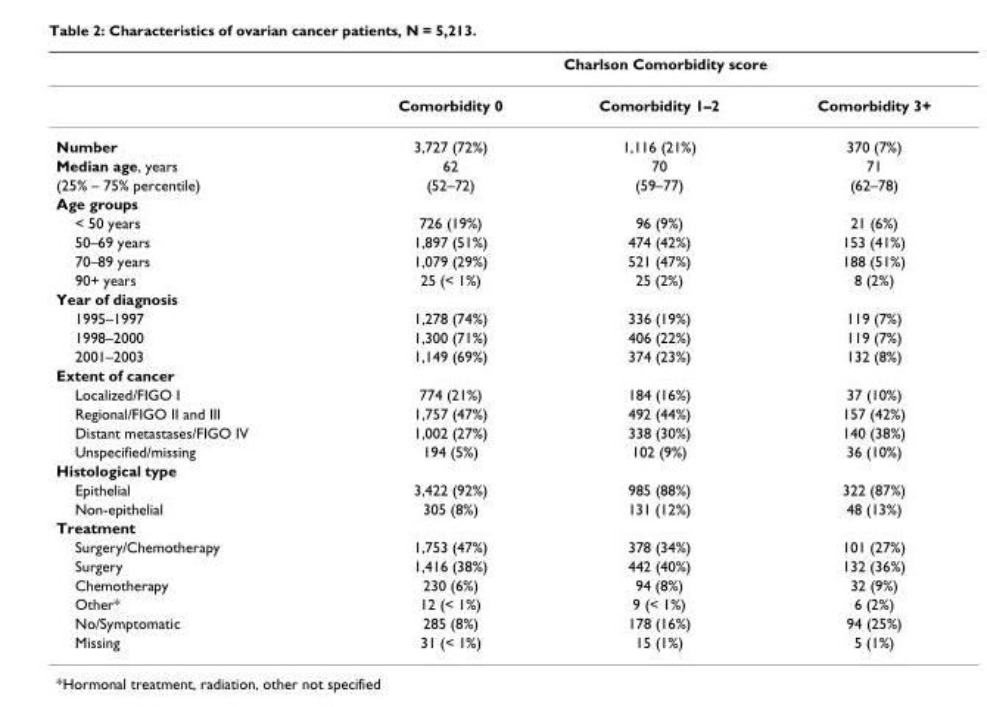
<table><thead><tr><td rowspan="2"></td><td colspan="3">Charlson Comorbidity score</td></tr><tr><td>Comorbidity 0</td><td>Comorbidity 1–2</td><td>Comorbidity 3+</td></tr></thead><tbody><tr><td>Number</td><td>3,727 (72%)</td><td>1,116 (21%)</td><td>370 (7%)</td></tr><tr><td>Median age, years</td><td>62</td><td>70</td><td>71</td></tr><tr><td>(25% – 75% percentile)</td><td>(52–72)</td><td>(59–77)</td><td>(62–78)</td></tr><tr><td colspan="4">Age groups</td></tr><tr><td>&lt; 50 years</td><td>726 (19%)</td><td>96 (9%)</td><td>21 (6%)</td></tr><tr><td>50–69 years</td><td>1,897 (51%)</td><td>474 (42%)</td><td>153 (41%)</td></tr><tr><td>70–89 years</td><td>1,079 (29%)</td><td>521 (47%)</td><td>188 (51%)</td></tr><tr><td>90+ years</td><td>25 (&lt; 1%)</td><td>25 (2%)</td><td>8 (2%)</td></tr><tr><td colspan="4">Year of diagnosis</td></tr><tr><td>1995–1997</td><td>1,278 (74%)</td><td>336 (19%)</td><td>119 (7%)</td></tr><tr><td>1998–2000</td><td>1,300 (71%)</td><td>406 (22%)</td><td>119 (7%)</td></tr><tr><td>2001–2003</td><td>1,149 (69%)</td><td>374 (23%)</td><td>132 (8%)</td></tr><tr><td colspan="4">Extent of cancer</td></tr><tr><td>Localized/FIGO I</td><td>774 (21%)</td><td>184 (16%)</td><td>37 (10%)</td></tr><tr><td>Regional/FIGO II and III</td><td>1,757 (47%)</td><td>492 (44%)</td><td>157 (42%)</td></tr><tr><td>Distant metastases/FIGO IV</td><td>1,002 (27%)</td><td>338 (30%)</td><td>140 (38%)</td></tr><tr><td>Unspecified/missing</td><td>194 (5%)</td><td>102 (9%)</td><td>36 (10%)</td></tr><tr><td colspan="4">Histological type</td></tr><tr><td>Epithelial</td><td>3,422 (92%)</td><td>985 (88%)</td><td>322 (87%)</td></tr><tr><td>Non-epithelial</td><td>305 (8%)</td><td>131 (12%)</td><td>48 (13%)</td></tr><tr><td colspan="4">Treatment</td></tr><tr><td>Surgery/Chemotherapy</td><td>1,753 (47%)</td><td>378 (34%)</td><td>101 (27%)</td></tr><tr><td>Surgery</td><td>1,416 (38%)</td><td>442 (40%)</td><td>132 (36%)</td></tr><tr><td>Chemotherapy</td><td>230 (6%)</td><td>94 (8%)</td><td>32 (9%)</td></tr><tr><td>Other*</td><td>12 (&lt; 1%)</td><td>9 (&lt; 1%)</td><td>6 (2%)</td></tr><tr><td>No/Symptomatic</td><td>285 (8%)</td><td>178 (16%)</td><td>94 (25%)</td></tr><tr><td>Missing</td><td>31 (&lt; 1%)</td><td>15 (1%)</td><td>5 (1%)</td></tr></tbody></table>